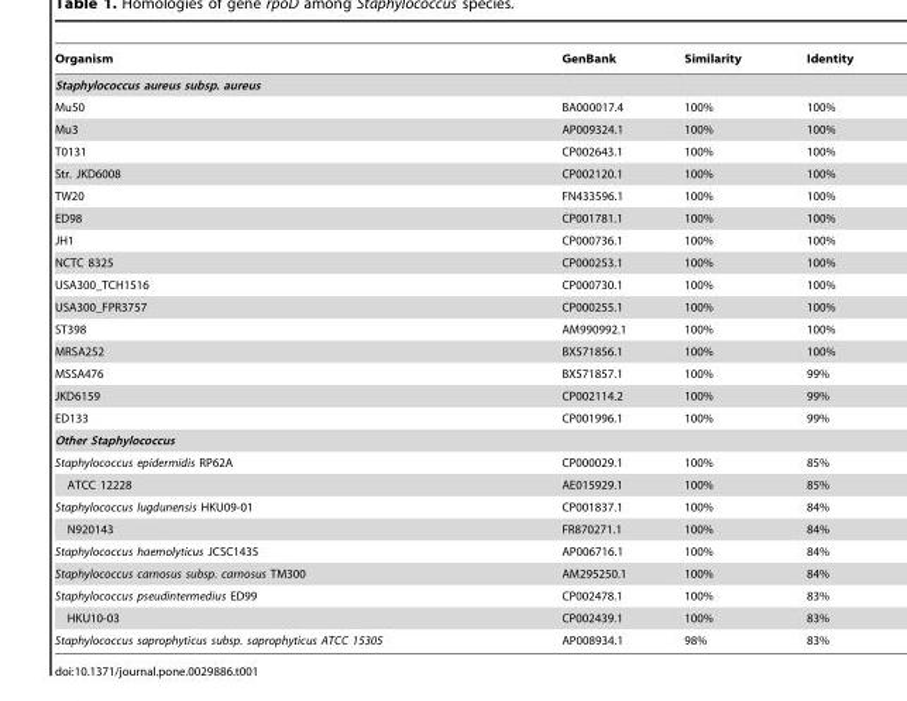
<table><thead><tr><td>Organism</td><td>GenBank</td><td>Similarity</td><td>Identity</td></tr></thead><tbody><tr><td colspan="4">Staphylococcus aureus subsp. aureus</td></tr><tr><td>Mu50</td><td>BA000017.4</td><td>100%</td><td>100%</td></tr><tr><td>Mu3</td><td>AP009324.1</td><td>100%</td><td>100%</td></tr><tr><td>T0131</td><td>CP002643.1</td><td>100%</td><td>100%</td></tr><tr><td>Str. JKD6008</td><td>CP002120.1</td><td>100%</td><td>100%</td></tr><tr><td>TW20</td><td>FN433596.1</td><td>100%</td><td>100%</td></tr><tr><td>ED98</td><td>CP001781.1</td><td>100%</td><td>100%</td></tr><tr><td>JH1</td><td>CP000736.1</td><td>100%</td><td>100%</td></tr><tr><td>NCTC 8325</td><td>CP000253.1</td><td>100%</td><td>100%</td></tr><tr><td>USA300_TCH1516</td><td>CP000730.1</td><td>100%</td><td>100%</td></tr><tr><td>USA300_FPR3757</td><td>CP000255.1</td><td>100%</td><td>100%</td></tr><tr><td>ST398</td><td>AM990992.1</td><td>100%</td><td>100%</td></tr><tr><td>MRSA252</td><td>BX571856.1</td><td>100%</td><td>100%</td></tr><tr><td>MSSA476</td><td>BX571857.1</td><td>100%</td><td>99%</td></tr><tr><td>JKD6159</td><td>CP002114.2</td><td>100%</td><td>99%</td></tr><tr><td>ED133</td><td>CP001996.1</td><td>100%</td><td>99%</td></tr><tr><td colspan="4">Other Staphylococcus</td></tr><tr><td>Staphylococcus epidermidis RP62A</td><td>CP000029.1</td><td>100%</td><td>85%</td></tr><tr><td>ATCC 12228</td><td>AE015929.1</td><td>100%</td><td>85%</td></tr><tr><td>Staphylococcus lugdunensis HKU09-01</td><td>CP001837.1</td><td>100%</td><td>84%</td></tr><tr><td>N920143</td><td>FR870271.1</td><td>100%</td><td>84%</td></tr><tr><td>Staphylococcus haemolyticus JCSC1435</td><td>AP006716.1</td><td>100%</td><td>84%</td></tr><tr><td>Staphylococcus carnosus subsp. carnosus TM300</td><td>AM295250.1</td><td>100%</td><td>84%</td></tr><tr><td>Staphylococcus pseudintermedius ED99</td><td>CP002478.1</td><td>100%</td><td>83%</td></tr><tr><td>HKU10-03</td><td>CP002439.1</td><td>100%</td><td>83%</td></tr><tr><td>Staphylococcus saprophyticus subsp. saprophyticus ATCC 15305</td><td>AP008934.1</td><td>98%</td><td>83%</td></tr></tbody></table>